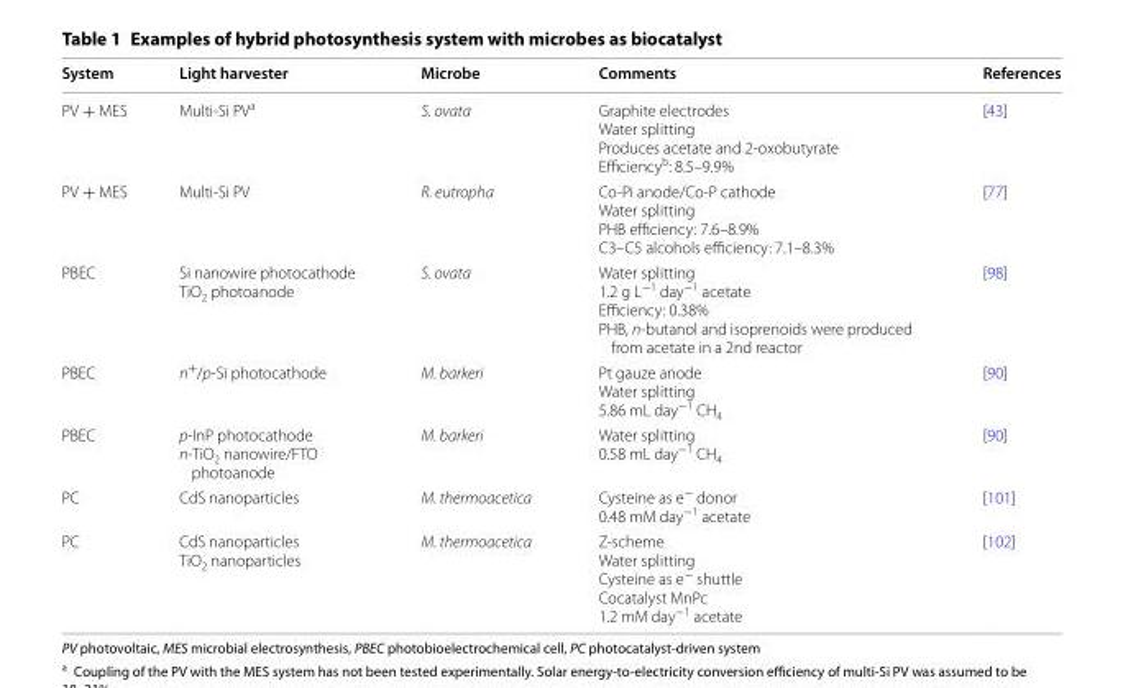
<table><thead><tr><td>System</td><td>Light harvester</td><td>Microbe</td><td>Comments</td><td>References</td></tr></thead><tbody><tr><td>PV + MES</td><td>Multi‑Si PV<sup>a</sup></td><td>S. ovata</td><td>Graphite electrodes Water splitting Produces acetate and 2‑oxobutyrate Efficiency<sup>b</sup>: 8.5–9.9%</td><td>[43]</td></tr><tr><td>PV + MES</td><td>Multi‑Si PV</td><td>R. eutropha</td><td>Co‑Pi anode/Co‑P cathode Water splitting PHB efficiency: 7.6–8.9% C3–C5 alcohols efficiency: 7.1–8.3%</td><td>[77]</td></tr><tr><td>PBEC</td><td>Si nanowire photocathode TiO<sub>2</sub> photoanode</td><td>S. ovata</td><td>Water splitting 1.2 g L<sup>−1</sup> day<sup>−1</sup> acetate Efficiency: 0.38% PHB, n‑butanol and isoprenoids were produced from acetate in a 2nd reactor</td><td>[98]</td></tr><tr><td>PBEC</td><td>n<sup>+</sup>/p‑Si photocathode</td><td>M. barkeri</td><td>Pt gauze anode Water splitting 5.86 mL day<sup>−1</sup> CH<sub>4</sub></td><td>[90]</td></tr><tr><td>PBEC</td><td>p‑InP photocathode n‑TiO<sub>2</sub> nanowire/FTO photoanode</td><td>M. barkeri</td><td>Water splitting 0.58 mL day<sup>−1</sup> CH<sub>4</sub></td><td>[90]</td></tr><tr><td>PC</td><td>CdS nanoparticles</td><td>M. thermoacetica</td><td>Cysteine as e<sup>−</sup> donor 0.48 mM day<sup>−1</sup> acetate</td><td>[101]</td></tr><tr><td>PC</td><td>CdS nanoparticles TiO<sub>2</sub> nanoparticles</td><td>M. thermoacetica</td><td>Z‑scheme Water splitting Cysteine as e<sup>−</sup> shuttle Cocatalyst MnPc 1.2 mM day<sup>−1</sup> acetate</td><td>[102]</td></tr></tbody></table>